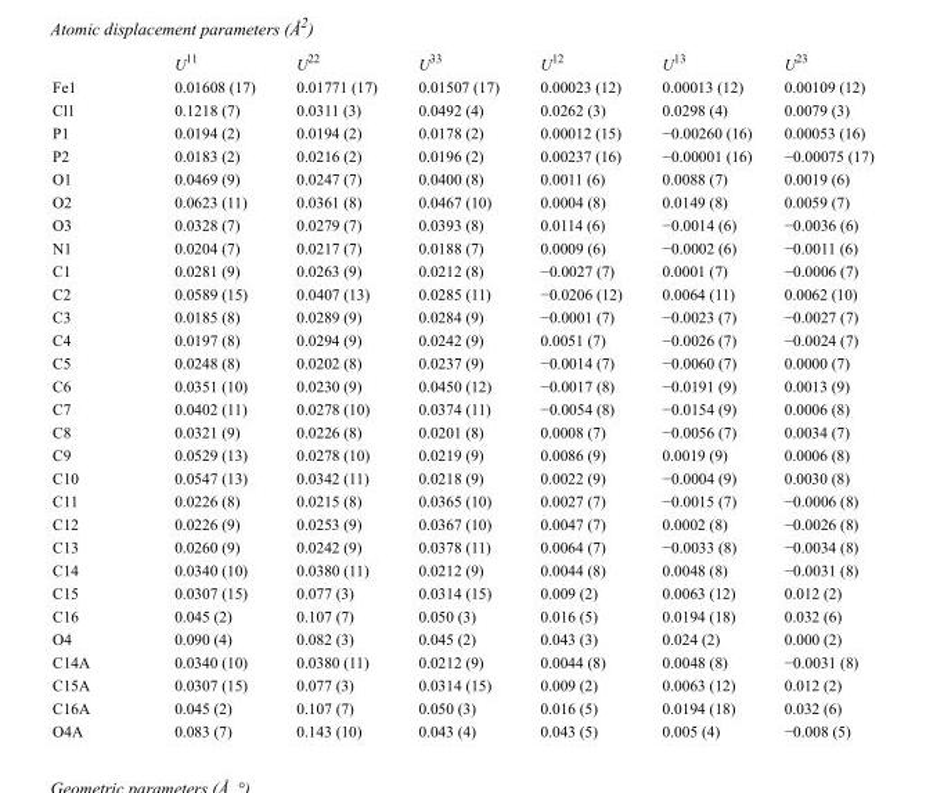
<table><thead><tr><td></td><td>U<sup>11</sup></td><td>U<sup>22</sup></td><td>U<sup>33</sup></td><td>U<sup>12</sup></td><td>U<sup>13</sup></td><td>U<sup>23</sup></td></tr></thead><tbody><tr><td>Fe1</td><td>0.01608 (17)</td><td>0.01771 (17)</td><td>0.01507 (17)</td><td>0.00023 (12)</td><td>0.00013 (12)</td><td>0.00109 (12)</td></tr><tr><td>Cl1</td><td>0.1218 (7)</td><td>0.0311 (3)</td><td>0.0492 (4)</td><td>0.0262 (3)</td><td>0.0298 (4)</td><td>0.0079 (3)</td></tr><tr><td>P1</td><td>0.0194 (2)</td><td>0.0194 (2)</td><td>0.0178 (2)</td><td>0.00012 (15)</td><td>−0.00260 (16)</td><td>0.00053 (16)</td></tr><tr><td>P2</td><td>0.0183 (2)</td><td>0.0216 (2)</td><td>0.0196 (2)</td><td>0.00237 (16)</td><td>−0.00001 (16)</td><td>−0.00075 (17)</td></tr><tr><td>O1</td><td>0.0469 (9)</td><td>0.0247 (7)</td><td>0.0400 (8)</td><td>0.0011 (6)</td><td>0.0088 (7)</td><td>0.0019 (6)</td></tr><tr><td>O2</td><td>0.0623 (11)</td><td>0.0361 (8)</td><td>0.0467 (10)</td><td>0.0004 (8)</td><td>0.0149 (8)</td><td>0.0059 (7)</td></tr><tr><td>O3</td><td>0.0328 (7)</td><td>0.0279 (7)</td><td>0.0393 (8)</td><td>0.0114 (6)</td><td>−0.0014 (6)</td><td>−0.0036 (6)</td></tr><tr><td>N1</td><td>0.0204 (7)</td><td>0.0217 (7)</td><td>0.0188 (7)</td><td>0.0009 (6)</td><td>−0.0002 (6)</td><td>−0.0011 (6)</td></tr><tr><td>C1</td><td>0.0281 (9)</td><td>0.0263 (9)</td><td>0.0212 (8)</td><td>−0.0027 (7)</td><td>0.0001 (7)</td><td>−0.0006 (7)</td></tr><tr><td>C2</td><td>0.0589 (15)</td><td>0.0407 (13)</td><td>0.0285 (11)</td><td>−0.0206 (12)</td><td>0.0064 (11)</td><td>0.0062 (10)</td></tr><tr><td>C3</td><td>0.0185 (8)</td><td>0.0289 (9)</td><td>0.0284 (9)</td><td>−0.0001 (7)</td><td>−0.0023 (7)</td><td>−0.0027 (7)</td></tr><tr><td>C4</td><td>0.0197 (8)</td><td>0.0294 (9)</td><td>0.0242 (9)</td><td>0.0051 (7)</td><td>−0.0026 (7)</td><td>−0.0024 (7)</td></tr><tr><td>C5</td><td>0.0248 (8)</td><td>0.0202 (8)</td><td>0.0237 (9)</td><td>−0.0014 (7)</td><td>−0.0060 (7)</td><td>0.0000 (7)</td></tr><tr><td>C6</td><td>0.0351 (10)</td><td>0.0230 (9)</td><td>0.0450 (12)</td><td>−0.0017 (8)</td><td>−0.0191 (9)</td><td>0.0013 (9)</td></tr><tr><td>C7</td><td>0.0402 (11)</td><td>0.0278 (10)</td><td>0.0374 (11)</td><td>−0.0054 (8)</td><td>−0.0154 (9)</td><td>0.0006 (8)</td></tr><tr><td>C8</td><td>0.0321 (9)</td><td>0.0226 (8)</td><td>0.0201 (8)</td><td>0.0008 (7)</td><td>−0.0056 (7)</td><td>0.0034 (7)</td></tr><tr><td>C9</td><td>0.0529 (13)</td><td>0.0278 (10)</td><td>0.0219 (9)</td><td>0.0086 (9)</td><td>0.0019 (9)</td><td>0.0006 (8)</td></tr><tr><td>C10</td><td>0.0547 (13)</td><td>0.0342 (11)</td><td>0.0218 (9)</td><td>0.0022 (9)</td><td>−0.0004 (9)</td><td>0.0030 (8)</td></tr><tr><td>C11</td><td>0.0226 (8)</td><td>0.0215 (8)</td><td>0.0365 (10)</td><td>0.0027 (7)</td><td>−0.0015 (7)</td><td>−0.0006 (8)</td></tr><tr><td>C12</td><td>0.0226 (9)</td><td>0.0253 (9)</td><td>0.0367 (10)</td><td>0.0047 (7)</td><td>0.0002 (8)</td><td>−0.0026 (8)</td></tr><tr><td>C13</td><td>0.0260 (9)</td><td>0.0242 (9)</td><td>0.0378 (11)</td><td>0.0064 (7)</td><td>−0.0033 (8)</td><td>−0.0034 (8)</td></tr><tr><td>C14</td><td>0.0340 (10)</td><td>0.0380 (11)</td><td>0.0212 (9)</td><td>0.0044 (8)</td><td>0.0048 (8)</td><td>−0.0031 (8)</td></tr><tr><td>C15</td><td>0.0307 (15)</td><td>0.077 (3)</td><td>0.0314 (15)</td><td>0.009 (2)</td><td>0.0063 (12)</td><td>0.012 (2)</td></tr><tr><td>C16</td><td>0.045 (2)</td><td>0.107 (7)</td><td>0.050 (3)</td><td>0.016 (5)</td><td>0.0194 (18)</td><td>0.032 (6)</td></tr><tr><td>O4</td><td>0.090 (4)</td><td>0.082 (3)</td><td>0.045 (2)</td><td>0.043 (3)</td><td>0.024 (2)</td><td>0.000 (2)</td></tr><tr><td>C14A</td><td>0.0340 (10)</td><td>0.0380 (11)</td><td>0.0212 (9)</td><td>0.0044 (8)</td><td>0.0048 (8)</td><td>−0.0031 (8)</td></tr><tr><td>C15A</td><td>0.0307 (15)</td><td>0.077 (3)</td><td>0.0314 (15)</td><td>0.009 (2)</td><td>0.0063 (12)</td><td>0.012 (2)</td></tr><tr><td>C16A</td><td>0.045 (2)</td><td>0.107 (7)</td><td>0.050 (3)</td><td>0.016 (5)</td><td>0.0194 (18)</td><td>0.032 (6)</td></tr><tr><td>O4A</td><td>0.083 (7)</td><td>0.143 (10)</td><td>0.043 (4)</td><td>0.043 (5)</td><td>0.005 (4)</td><td>−0.008 (5)</td></tr></tbody></table>